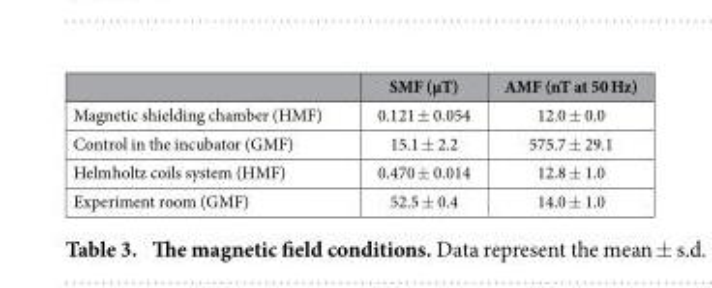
<table><thead><tr><td></td><td>SMF (μT)</td><td>AMF (nT at 50 Hz)</td></tr></thead><tbody><tr><td>Magnetic shielding chamber (HMF)</td><td>0.121 ± 0.054</td><td>12.0 ± 0.0</td></tr><tr><td>Control in the incubator (GMF)</td><td>15.1 ± 2.2</td><td>575.7 ± 29.1</td></tr><tr><td>Helmholtz coils system (HMF)</td><td>0.470 ± 0.014</td><td>12.8 ± 1.0</td></tr><tr><td>Experiment room (GMF)</td><td>52.5 ± 0.4</td><td>14.0 ± 1.0</td></tr></tbody></table>